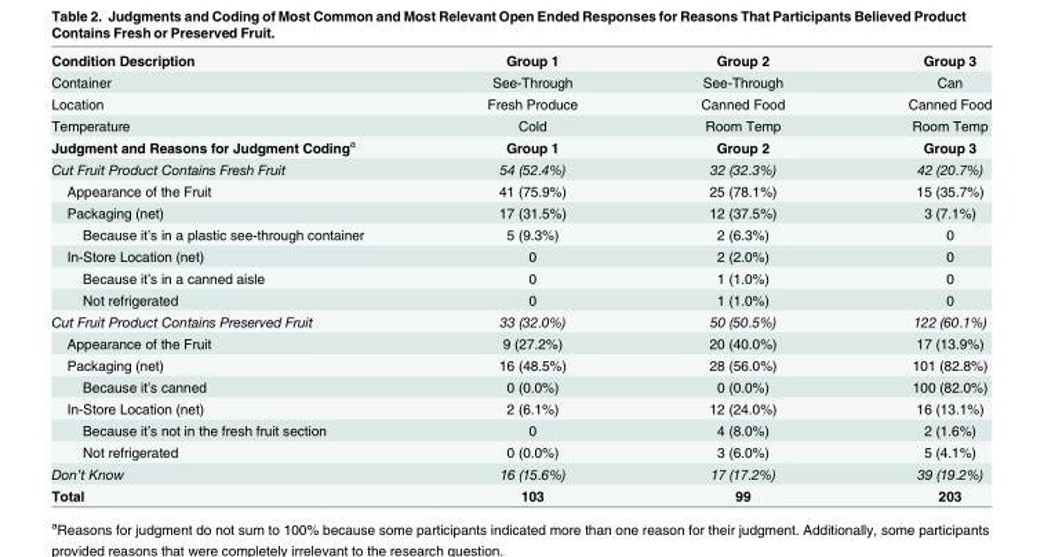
<table><tbody><tr><td>Condition Description</td><td>Group 1</td><td>Group 2</td><td>Group 3</td></tr><tr><td>Container</td><td>See-Through</td><td>See-Through</td><td>Can</td></tr><tr><td>Location</td><td>Fresh Produce</td><td>Canned Food</td><td>Canned Food</td></tr><tr><td>Temperature</td><td>Cold</td><td>Room Temp</td><td>Room Temp</td></tr><tr><td>Judgment and Reasons for Judgment Coding<sup>a</sup></td><td>Group 1</td><td>Group 2</td><td>Group 3</td></tr><tr><td>Cut Fruit Product Contains Fresh Fruit</td><td>54 (52.4%)</td><td>32 (32.3%)</td><td>42 (20.7%)</td></tr><tr><td>Appearance of the Fruit</td><td>41 (75.9%)</td><td>25 (78.1%)</td><td>15 (35.7%)</td></tr><tr><td>Packaging (net)</td><td>17 (31.5%)</td><td>12 (37.5%)</td><td>3 (7.1%)</td></tr><tr><td>Because it’s in a plastic see-through container</td><td>5 (9.3%)</td><td>2 (6.3%)</td><td>0</td></tr><tr><td>In-Store Location (net)</td><td>0</td><td>2 (2.0%)</td><td>0</td></tr><tr><td>Because it’s in a canned aisle</td><td>0</td><td>1 (1.0%)</td><td>0</td></tr><tr><td>Not refrigerated</td><td>0</td><td>1 (1.0%)</td><td>0</td></tr><tr><td>Cut Fruit Product Contains Preserved Fruit</td><td>33 (32.0%)</td><td>50 (50.5%)</td><td>122 (60.1%)</td></tr><tr><td>Appearance of the Fruit</td><td>9 (27.2%)</td><td>20 (40.0%)</td><td>17 (13.9%)</td></tr><tr><td>Packaging (net)</td><td>16 (48.5%)</td><td>28 (56.0%)</td><td>101 (82.8%)</td></tr><tr><td>Because it’s canned</td><td>0 (0.0%)</td><td>0 (0.0%)</td><td>100 (82.0%)</td></tr><tr><td>In-Store Location (net)</td><td>2 (6.1%)</td><td>12 (24.0%)</td><td>16 (13.1%)</td></tr><tr><td>Because it’s not in the fresh fruit section</td><td>0</td><td>4 (8.0%)</td><td>2 (1.6%)</td></tr><tr><td>Not refrigerated</td><td>0 (0.0%)</td><td>3 (6.0%)</td><td>5 (4.1%)</td></tr><tr><td>Don’t Know</td><td>16 (15.6%)</td><td>17 (17.2%)</td><td>39 (19.2%)</td></tr><tr><td>Total</td><td>103</td><td>99</td><td>203</td></tr></tbody></table>